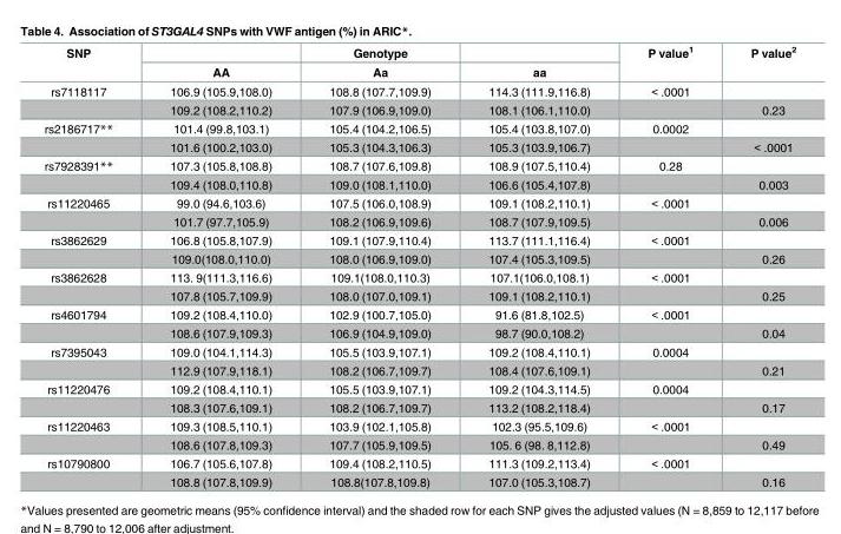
<table><thead><tr><td rowspan="2">SNP</td><td rowspan="2">AA</td><td rowspan="2">Genotype Aa</td><td rowspan="2">aa</td><td rowspan="2">P value<sup>1</sup></td><td rowspan="2">P value<sup>2</sup></td></tr><tr></tr></thead><tbody><tr><td rowspan="2">rs7118117</td><td>106.9 (105.9,108.0)</td><td>108.8 (107.7,109.9)</td><td>114.3 (111.9,116.8)</td><td>&lt; .0001</td><td></td></tr><tr><td>109.2 (108.2,110.2)</td><td>107.9 (106.9,109.0)</td><td>108.1 (106.1,110.0)</td><td></td><td>0.23</td></tr><tr><td rowspan="2">rs2186717**</td><td>101.4 (99.8,103.1)</td><td>105.4 (104.2,106.5)</td><td>105.4 (103.8,107.0)</td><td>0.0002</td><td></td></tr><tr><td>101.6 (100.2,103.0)</td><td>105.3 (104.3,106.3)</td><td>105.3 (103.9,106.7)</td><td></td><td>&lt; .0001</td></tr><tr><td rowspan="2">rs7928391**</td><td>107.3 (105.8,108.8)</td><td>108.7 (107.6,109.8)</td><td>108.9 (107.5,110.4)</td><td>0.28</td><td></td></tr><tr><td>109.4 (108.0,110.8)</td><td>109.0 (108.1,110.0)</td><td>106.6 (105.4,107.8)</td><td></td><td>0.003</td></tr><tr><td rowspan="2">rs11220465</td><td>99.0 (94.6,103.6)</td><td>107.5 (106.0,108.9)</td><td>109.1 (108.2,110.1)</td><td>&lt; .0001</td><td></td></tr><tr><td>101.7 (97.7,105.9)</td><td>108.2 (106.9,109.6)</td><td>108.7 (107.9,109.5)</td><td></td><td>0.006</td></tr><tr><td rowspan="2">rs3862629</td><td>106.8 (105.8,107.9)</td><td>109.1 (107.9,110.4)</td><td>113.7 (111.1,116.4)</td><td>&lt; .0001</td><td></td></tr><tr><td>109.0(108.0,110.0)</td><td>108.0 (106.9,109.0)</td><td>107.4 (105.3,109.5)</td><td></td><td>0.26</td></tr><tr><td rowspan="2">rs3862628</td><td>113. 9(111.3,116.6)</td><td>109.1(108.0,110.3)</td><td>107.1(106.0,108.1)</td><td>&lt; .0001</td><td></td></tr><tr><td>107.8 (105.7,109.9)</td><td>108.0 (107.0,109.1)</td><td>109.1 (108.2,110.1)</td><td></td><td>0.25</td></tr><tr><td rowspan="2">rs4601794</td><td>109.2 (108.4,110.0)</td><td>102.9 (100.7,105.0)</td><td>91.6 (81.8,102.5)</td><td>&lt; .0001</td><td></td></tr><tr><td>108.6 (107.9,109.3)</td><td>106.9 (104.9,109.0)</td><td>98.7 (90.0,108.2)</td><td></td><td>0.04</td></tr><tr><td rowspan="2">rs7395043</td><td>109.0 (104.1,114.3)</td><td>105.5 (103.9,107.1)</td><td>109.2 (108.4,110.1)</td><td>0.0004</td><td></td></tr><tr><td>112.9 (107.9,118.1)</td><td>108.2 (106.7,109.7)</td><td>108.4 (107.6,109.1)</td><td></td><td>0.21</td></tr><tr><td rowspan="2">rs11220476</td><td>109.2 (108.4,110.1)</td><td>105.5 (103.9,107.1)</td><td>109.2 (104.3,114.5)</td><td>0.0004</td><td></td></tr><tr><td>108.3 (107.6,109.1)</td><td>108.2 (106.7,109.7)</td><td>113.2 (108.2,118.4)</td><td></td><td>0.17</td></tr><tr><td rowspan="2">rs11220463</td><td>109.3 (108.5,110.1)</td><td>103.9 (102.1,105.8)</td><td>102.3 (95.5,109.6)</td><td>&lt; .0001</td><td></td></tr><tr><td>108.6 (107.8,109.3)</td><td>107.7 (105.9,109.5)</td><td>105. 6 (98. 8,112.8)</td><td></td><td>0.49</td></tr><tr><td rowspan="2">rs10790800</td><td>106.7 (105.6,107.8)</td><td>109.4 (108.2,110.5)</td><td>111.3 (109.2,113.4)</td><td>&lt; .0001</td><td></td></tr><tr><td>108.8 (107.8,109.9)</td><td>108.8(107.8,109.8)</td><td>107.0 (105.3,108.7)</td><td></td><td>0.16</td></tr></tbody></table>